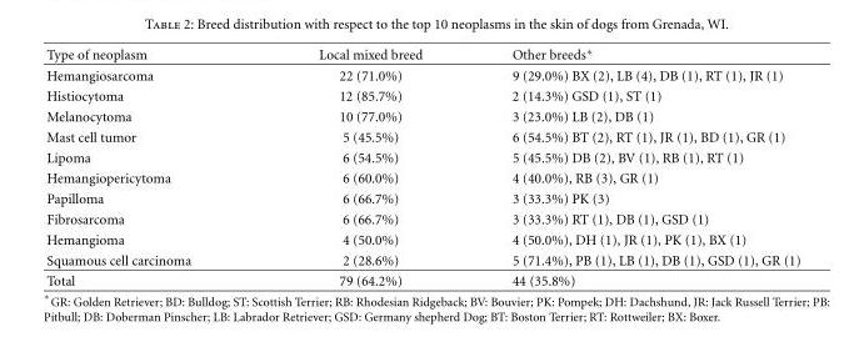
<table><thead><tr><td>Type of neoplasm</td><td>Local mixed breed</td><td>Other breeds∗</td></tr></thead><tbody><tr><td>Hemangiosarcoma</td><td>22 (71.0%)</td><td>9 (29.0%) BX (2), LB (4), DB (1), RT (1), JR (1)</td></tr><tr><td>Histiocytoma</td><td>12 (85.7%)</td><td>2 (14.3%) GSD (1), ST (1)</td></tr><tr><td>Melanocytoma</td><td>10 (77.0%)</td><td>3 (23.0%) LB (2), DB (1)</td></tr><tr><td>Mast cell tumor</td><td>5 (45.5%)</td><td>6 (54.5%) BT (2), RT (1), JR (1), BD (1), GR (1)</td></tr><tr><td>Lipoma</td><td>6 (54.5%)</td><td>5 (45.5%) DB (2), BV (1), RB (1), RT (1)</td></tr><tr><td>Hemangiopericytoma</td><td>6 (60.0%)</td><td>4 (40.0%), RB (3), GR (1)</td></tr><tr><td>Papilloma</td><td>6 (66.7%)</td><td>3 (33.3%) PK (3)</td></tr><tr><td>Fibrosarcoma</td><td>6 (66.7%)</td><td>3 (33.3%) RT (1), DB (1), GSD (1)</td></tr><tr><td>Hemangioma</td><td>4 (50.0%)</td><td>4 (50.0%), DH (1), JR (1), PK (1), BX (1)</td></tr><tr><td>Squamous cell carcinoma</td><td>2 (28.6%)</td><td>5 (71.4%), PB (1), LB (1), DB (1), GSD (1), GR (1)</td></tr><tr><td>Total</td><td>79 (64.2%)</td><td>44 (35.8%)</td></tr></tbody></table>